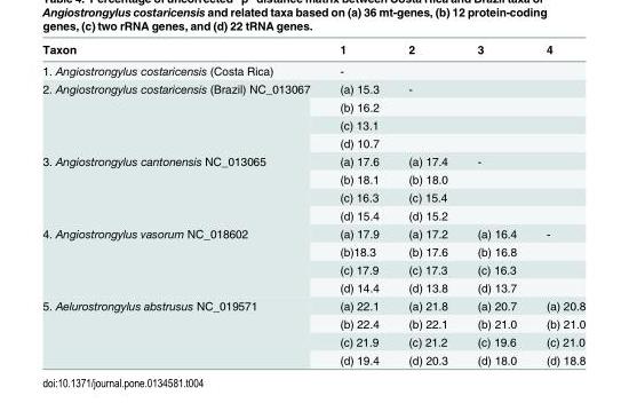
<table><thead><tr><td>Taxon</td><td>1</td><td>2</td><td>3</td><td>4</td></tr></thead><tbody><tr><td>1. Angiostrongylus costaricensis (Costa Rica)</td><td>-</td><td></td><td></td><td></td></tr><tr><td rowspan="4">2. Angiostrongylus costaricensis (Brazil) NC_013067</td><td>(a) 15.3</td><td>-</td><td></td><td></td></tr><tr><td>(b) 16.2</td><td></td><td></td><td></td></tr><tr><td>(c) 13.1</td><td></td><td></td><td></td></tr><tr><td>(d) 10.7</td><td></td><td></td><td></td></tr><tr><td rowspan="4">3. Angiostrongylus cantonensis NC_013065</td><td>(a) 17.6</td><td>(a) 17.4</td><td>-</td><td></td></tr><tr><td>(b) 18.1</td><td>(b) 18.0</td><td></td><td></td></tr><tr><td>(c) 16.3</td><td>(c) 15.4</td><td></td><td></td></tr><tr><td>(d) 15.4</td><td>(d) 15.2</td><td></td><td></td></tr><tr><td rowspan="4">4. Angiostrongylus vasorum NC_018602</td><td>(a) 17.9</td><td>(a) 17.2</td><td>(a) 16.4</td><td>-</td></tr><tr><td>(b)18.3</td><td>(b) 17.6</td><td>(b) 16.8</td><td></td></tr><tr><td>(c) 17.9</td><td>(c) 17.3</td><td>(c) 16.3</td><td></td></tr><tr><td>(d) 14.4</td><td>(d) 13.8</td><td>(d) 13.7</td><td></td></tr><tr><td rowspan="4">5. Aelurostrongylus abstrusus NC_019571</td><td>(a) 22.1</td><td>(a) 21.8</td><td>(a) 20.7</td><td>(a) 20.8</td></tr><tr><td>(b) 22.4</td><td>(b) 22.1</td><td>(b) 21.0</td><td>(b) 21.0</td></tr><tr><td>(c) 21.9</td><td>(c) 21.2</td><td>(c) 19.6</td><td>(c) 21.0</td></tr><tr><td>(d) 19.4</td><td>(d) 20.3</td><td>(d) 18.0</td><td>(d) 18.8</td></tr></tbody></table>